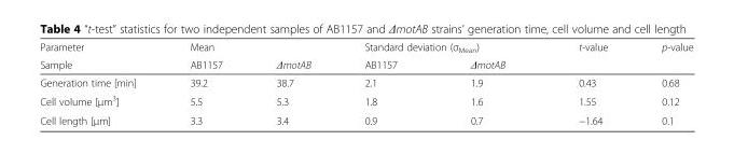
<table><thead><tr><td rowspan="2">Parameter Sample</td><td colspan="2">Mean</td><td colspan="2">Standard deviation (σ<sub>Mean</sub>)</td><td rowspan="2">t-value</td><td rowspan="2">p-value</td></tr><tr><td>AB1157</td><td>ΔmotAB</td><td>AB1157</td><td>ΔmotAB</td></tr></thead><tbody><tr><td>Generation time [min]</td><td>39.2</td><td>38.7</td><td>2.1</td><td>1.9</td><td>0.43</td><td>0.68</td></tr><tr><td>Cell volume [μm<sup>3</sup>]</td><td>5.5</td><td>5.3</td><td>1.8</td><td>1.6</td><td>1.55</td><td>0.12</td></tr><tr><td>Cell length [μm]</td><td>3.3</td><td>3.4</td><td>0.9</td><td>0.7</td><td>−1.64</td><td>0.1</td></tr></tbody></table>